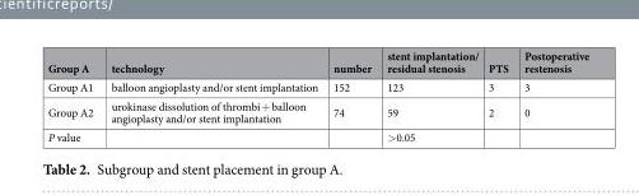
<table><thead><tr><td>Group A</td><td>technology</td><td>number</td><td>stent implantation/ residual stenosis</td><td>PTS</td><td>Postoperative restenosis</td></tr></thead><tbody><tr><td>Group A1</td><td>balloon angioplasty and/or stent implantation</td><td>152</td><td>123</td><td>3</td><td>3</td></tr><tr><td>Group A2</td><td>urokinase dissolution of thrombi + balloon angioplasty and/or stent implantation</td><td>74</td><td>59</td><td>2</td><td>0</td></tr><tr><td>P value</td><td></td><td></td><td>&gt;0.05</td><td></td><td></td></tr></tbody></table>